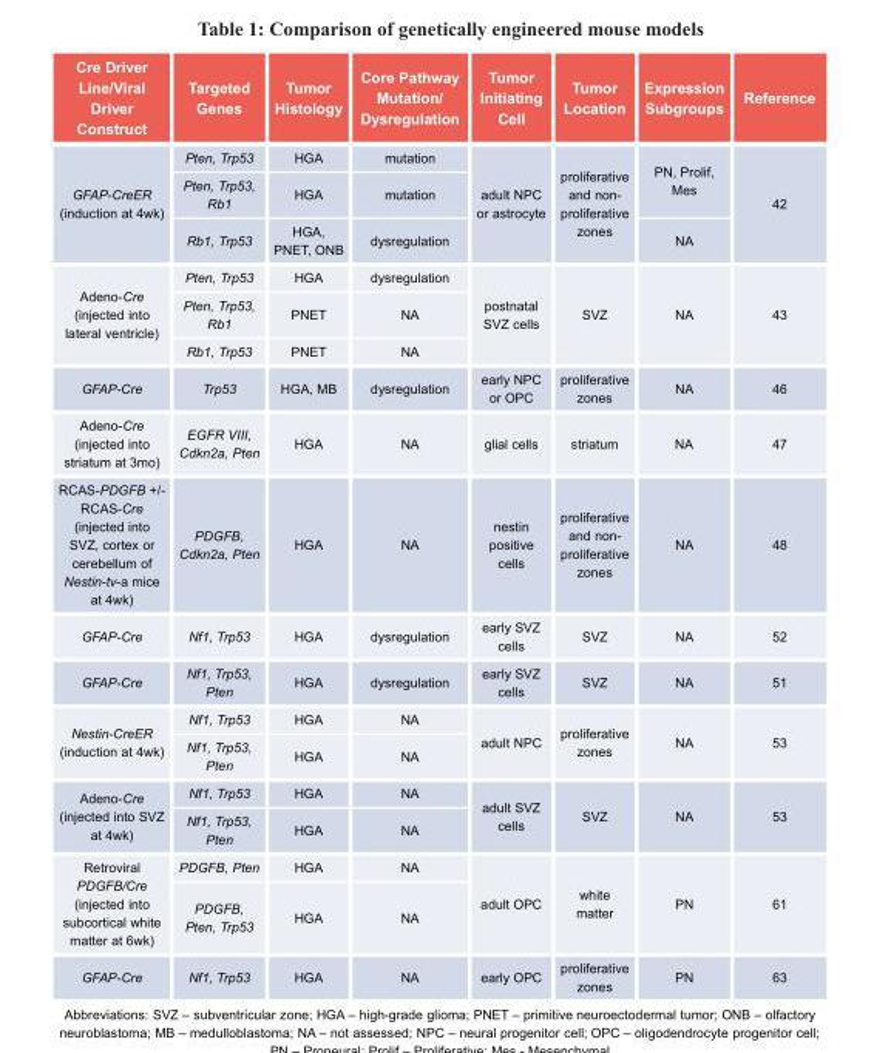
<table><thead><tr><td>Cre Driver Line/Viral Driver Construct</td><td>Targeted Genes</td><td>Tumor Histology</td><td>Core Pathway Mutation/ Dysregulation</td><td>Tumor Initiating Cell</td><td>Tumor Location</td><td>Expression Subgroups</td><td>Reference</td></tr></thead><tbody><tr><td rowspan="3">GFAP-CreER (induction at 4wk)</td><td>Pten, Trp53</td><td>HGA</td><td>mutation</td><td rowspan="3">adult NPC or astrocyte</td><td rowspan="3">proliferative and non- proliferative zones</td><td rowspan="2">PN, Prolif, Mes</td><td rowspan="3">42</td></tr><tr><td>Pten, Trp53, Rb1</td><td>HGA</td><td>mutation</td></tr><tr><td>Rb1, Trp53</td><td>HGA, PNET, ONB</td><td>dysregulation</td><td>NA</td></tr><tr><td rowspan="3">Adeno-Cre (injected into lateral ventricle)</td><td>Pten, Trp53</td><td>HGA</td><td>dysregulation</td><td rowspan="3">postnatal SVZ cells</td><td rowspan="3">SVZ</td><td rowspan="3">NA</td><td rowspan="3">43</td></tr><tr><td>Pten, Trp53, Rb1</td><td>PNET</td><td>NA</td></tr><tr><td>Rb1, Trp53</td><td>PNET</td><td>NA</td></tr><tr><td>GFAP-Cre</td><td>Trp53</td><td>HGA, MB</td><td>dysregulation</td><td>early NPC or OPC</td><td>proliferative zones</td><td>NA</td><td>46</td></tr><tr><td>Adeno-Cre (injected into striatum at 3mo)</td><td>EGFR VIII, Cdkn2a, Pten</td><td>HGA</td><td>NA</td><td>glial cells</td><td>striatum</td><td>NA</td><td>47</td></tr><tr><td>RCAS-PDGFB +/- RCAS-Cre (injected into SVZ, cortex or cerebellum of Nestin-tv-a mice at 4wk)</td><td>PDGFB, Cdkn2a, Pten</td><td>HGA</td><td>NA</td><td>nestin positive cells</td><td>proliferative and non- proliferative zones</td><td>NA</td><td>48</td></tr><tr><td>GFAP-Cre</td><td>Nf1, Trp53</td><td>HGA</td><td>dysregulation</td><td>early SVZ cells</td><td>SVZ</td><td>NA</td><td>52</td></tr><tr><td>GFAP-Cre</td><td>Nf1, Trp53, Pten</td><td>HGA</td><td>dysregulation</td><td>early SVZ cells</td><td>SVZ</td><td>NA</td><td>51</td></tr><tr><td rowspan="2">Nestin-CreER (induction at 4wk)</td><td>Nf1, Trp53</td><td>HGA</td><td>NA</td><td rowspan="2">adult NPC</td><td rowspan="2">proliferative zones</td><td rowspan="2">NA</td><td rowspan="2">53</td></tr><tr><td>Nf1, Trp53, Pten</td><td>HGA</td><td>NA</td></tr><tr><td rowspan="2">Adeno-Cre (injected into SVZ at 4wk)</td><td>Nf1, Trp53</td><td>HGA</td><td>NA</td><td rowspan="2">adult SVZ cells</td><td rowspan="2">SVZ</td><td rowspan="2">NA</td><td rowspan="2">53</td></tr><tr><td>Nf1, Trp53, Pten</td><td>HGA</td><td>NA</td></tr><tr><td rowspan="2">Retroviral PDGFB/Cre (injected into subcortical white matter at 6wk)</td><td>PDGFB, Pten</td><td>HGA</td><td>NA</td><td rowspan="2">adult OPC</td><td rowspan="2">white matter</td><td rowspan="2">PN</td><td rowspan="2">61</td></tr><tr><td>PDGFB, Pten, Trp53</td><td>HGA</td><td>NA</td></tr><tr><td>GFAP-Cre</td><td>Nf1, Trp53</td><td>HGA</td><td>NA</td><td>early OPC</td><td>proliferative zones</td><td>PN</td><td>63</td></tr></tbody></table>